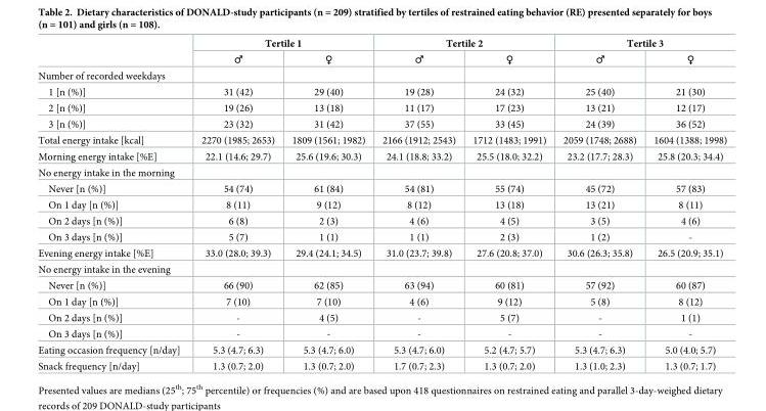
<table><thead><tr><td rowspan="2"></td><td colspan="2">Tertile 1</td><td colspan="2">Tertile 2</td><td colspan="2">Tertile 3</td></tr><tr><td>♂</td><td>♀</td><td>♂</td><td>♀</td><td>♂</td><td>♀</td></tr></thead><tbody><tr><td colspan="7">Number of recorded weekdays</td></tr><tr><td>1 [n (%)]</td><td>31 (42)</td><td>29 (40)</td><td>19 (28)</td><td>24 (32)</td><td>25 (40)</td><td>21 (30)</td></tr><tr><td>2 [n (%)]</td><td>19 (26)</td><td>13 (18)</td><td>11 (17)</td><td>17 (23)</td><td>13 (21)</td><td>12 (17)</td></tr><tr><td>3 [n (%)]</td><td>23 (32)</td><td>31 (42)</td><td>37 (55)</td><td>33 (45)</td><td>24 (39)</td><td>36 (52)</td></tr><tr><td>Total energy intake [kcal]</td><td>2270 (1985; 2653)</td><td>1809 (1561; 1982)</td><td>2166 (1912; 2543)</td><td>1712 (1483; 1991)</td><td>2059 (1748; 2688)</td><td>1604 (1388; 1998)</td></tr><tr><td>Morning energy intake [%E]</td><td>22.1 (14.6; 29.7)</td><td>25.6 (19.6; 30.3)</td><td>24.1 (18.8; 33.2)</td><td>25.5 (18.0; 32.2)</td><td>23.2 (17.7; 28.3)</td><td>25.8 (20.3; 34.4)</td></tr><tr><td colspan="7">No energy intake in the morning</td></tr><tr><td>Never [n (%)]</td><td>54 (74)</td><td>61 (84)</td><td>54 (81)</td><td>55 (74)</td><td>45 (72)</td><td>57 (83)</td></tr><tr><td>On 1 day [n (%)]</td><td>8 (11)</td><td>9 (12)</td><td>8 (12)</td><td>13 (18)</td><td>13 (21)</td><td>8 (11)</td></tr><tr><td>On 2 days [n (%)]</td><td>6 (8)</td><td>2 (3)</td><td>4 (6)</td><td>4 (5)</td><td>3 (5)</td><td>4 (6)</td></tr><tr><td>On 3 days [n (%)]</td><td>5 (7)</td><td>1 (1)</td><td>1 (1)</td><td>2 (3)</td><td>1 (2)</td><td>-</td></tr><tr><td>Evening energy intake [%E]</td><td>33.0 (28.0; 39.3)</td><td>29.4 (24.1; 34.5)</td><td>31.0 (23.7; 39.8)</td><td>27.6 (20.8; 37.0)</td><td>30.6 (26.3; 35.8)</td><td>26.5 (20.9; 35.1)</td></tr><tr><td colspan="7">No energy intake in the evening</td></tr><tr><td>Never [n (%)]</td><td>66 (90)</td><td>62 (85)</td><td>63 (94)</td><td>60 (81)</td><td>57 (92)</td><td>60 (87)</td></tr><tr><td>On 1 day [n (%)]</td><td>7 (10)</td><td>7 (10)</td><td>4 (6)</td><td>9 (12)</td><td>5 (8)</td><td>8 (12)</td></tr><tr><td>On 2 days [n (%)]</td><td>-</td><td>4 (5)</td><td>-</td><td>5 (7)</td><td>-</td><td>1 (1)</td></tr><tr><td>On 3 days [n (%)]</td><td>-</td><td>-</td><td>-</td><td>-</td><td>-</td><td>-</td></tr><tr><td>Eating occasion frequency [n/day]</td><td>5.3 (4.7; 6.3)</td><td>5.3 (4.7; 6.0)</td><td>5.3 (4.7; 6.0)</td><td>5.2 (4.7; 5.7)</td><td>5.3 (4.7; 6.3)</td><td>5.0 (4.0; 5.7)</td></tr><tr><td>Snack frequency [n/day]</td><td>1.3 (0.7; 2.0)</td><td>1.3 (0.7; 2.0)</td><td>1.7 (0.7; 2.3)</td><td>1.3 (0.7; 2.0)</td><td>1.3 (1.0; 2.3)</td><td>1.3 (0.7; 1.7)</td></tr></tbody></table>